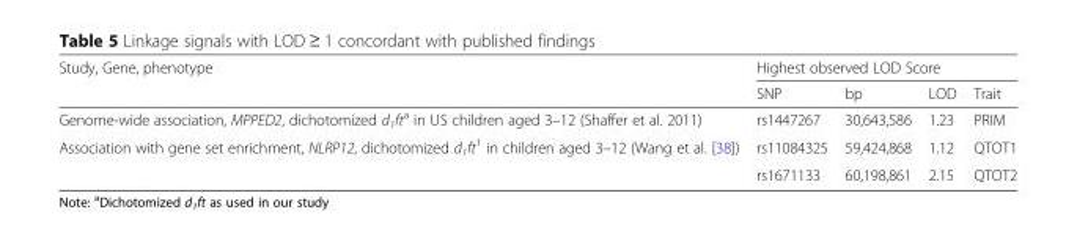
<table><thead><tr><td rowspan="2">Study, Gene, phenotype</td><td colspan="4">Highest observed LOD Score</td></tr><tr><td>SNP</td><td>bp</td><td>LOD</td><td>Trait</td></tr></thead><tbody><tr><td>Genome-wide association, MPPED2, dichotomized d<sub>1</sub>ft<sup>a</sup> in US children aged 3–12 (Shaffer et al. 2011)</td><td>rs1447267</td><td>30,643,586</td><td>1.23</td><td>PRIM</td></tr><tr><td rowspan="2">Association with gene set enrichment, NLRP12, dichotomized d<sub>1</sub>ft<sup>1</sup> in children aged 3–12 (Wang et al. [38])</td><td>rs11084325</td><td>59,424,868</td><td>1.12</td><td>QTOT1</td></tr><tr><td>rs1671133</td><td>60,198,861</td><td>2.15</td><td>QTOT2</td></tr></tbody></table>